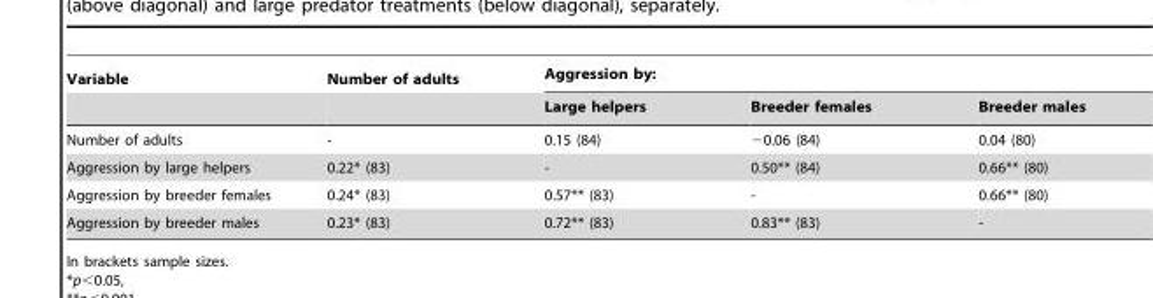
<table><thead><tr><td rowspan="2">Variable</td><td rowspan="2">Number of adults</td><td colspan="3">Aggression by:</td></tr><tr><td>Large helpers</td><td>Breeder females</td><td>Breeder males</td></tr></thead><tbody><tr><td>Number of adults</td><td>-</td><td>0.15 (84)</td><td>−0.06 (84)</td><td>0.04 (80)</td></tr><tr><td>Aggression by large helpers</td><td>0.22* (83)</td><td>-</td><td>0.50** (84)</td><td>0.66** (80)</td></tr><tr><td>Aggression by breeder females</td><td>0.24* (83)</td><td>0.57** (83)</td><td>-</td><td>0.66** (80)</td></tr><tr><td>Aggression by breeder males</td><td>0.23* (83)</td><td>0.72** (83)</td><td>0.83** (83)</td><td>-</td></tr></tbody></table>